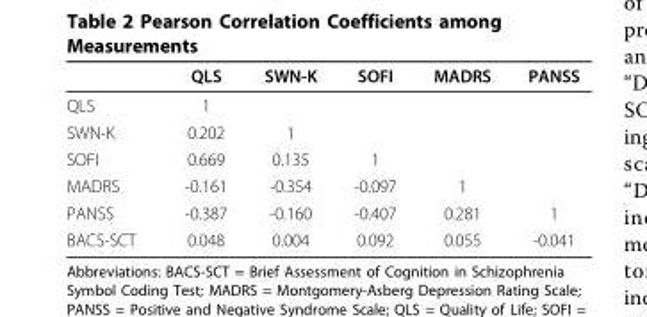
<table><thead><tr><td></td><td>QLS</td><td>SWN-K</td><td>SOFI</td><td>MADRS</td><td>PANSS</td></tr></thead><tbody><tr><td>QLS</td><td>1</td><td></td><td></td><td></td><td></td></tr><tr><td>SWN-K</td><td>0.202</td><td>1</td><td></td><td></td><td></td></tr><tr><td>SOFI</td><td>0.669</td><td>0.135</td><td>1</td><td></td><td></td></tr><tr><td>MADRS</td><td>-0.161</td><td>-0.354</td><td>-0.097</td><td>1</td><td></td></tr><tr><td>PANSS</td><td>-0.387</td><td>-0.160</td><td>-0.407</td><td>0.281</td><td>1</td></tr><tr><td>BACS-SCT</td><td>0.048</td><td>0.004</td><td>0.092</td><td>0.055</td><td>-0.041</td></tr></tbody></table>